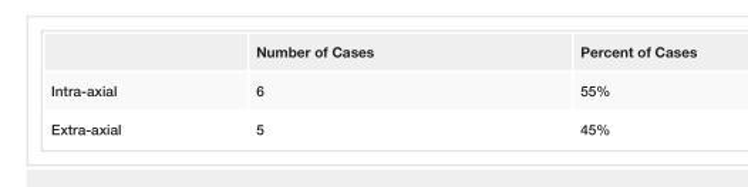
<table><thead><tr><td></td><td>Number of Cases</td><td>Percent of Cases</td></tr></thead><tbody><tr><td>Intra-axial</td><td>6</td><td>55%</td></tr><tr><td>Extra-axial</td><td>5</td><td>45%</td></tr></tbody></table>